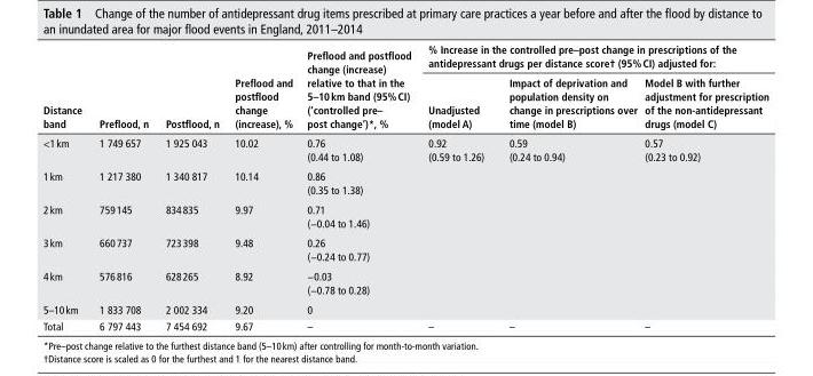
<table><thead><tr><td rowspan="2">distance band</td><td rowspan="2">Preflood, n</td><td rowspan="2">Postflood, n</td><td rowspan="2">Preflood and postflood change (increase), %</td><td rowspan="2">Preflood and postflood change (increase) relative to that in the 5–10 km band (95% cI) (‘controlled pre– post change’)*, %</td><td colspan="3">% Increase in the controlled pre–post change in prescriptions of the antidepressant drugs per distance score† (95% cI) adjusted for:</td></tr><tr><td>unadjusted (model A)</td><td>Impact of deprivation and population density on change in prescriptions over time (model b)</td><td>Model b with further adjustment for prescription of the non-antidepressant drugs (model c)</td></tr></thead><tbody><tr><td>&lt;1 km</td><td>1 749 657</td><td>1 925 043</td><td>10.02</td><td>0.76 (0.44 to 1.08)</td><td rowspan="6">0.92 (0.59 to 1.26)</td><td rowspan="6">0.59 (0.24 to 0.94)</td><td rowspan="6">0.57 (0.23 to 0.92)</td></tr><tr><td>1 km</td><td>1 217 380</td><td>1 340 817</td><td>10.14</td><td>0.86 (0.35 to 1.38)</td></tr><tr><td>2 km</td><td>759 145</td><td>834 835</td><td>9.97</td><td>0.71 (−0.04 to 1.46)</td></tr><tr><td>3 km</td><td>660 737</td><td>723 398</td><td>9.48</td><td>0.26 (−0.24 to 0.77)</td></tr><tr><td>4 km</td><td>576 816</td><td>628 265</td><td>8.92</td><td>−0.03 (−0.78 to 0.28)</td></tr><tr><td>5–10 km</td><td>1 833 708</td><td>2 002 334</td><td>9.20</td><td>0</td></tr><tr><td>Total</td><td>6 797 443</td><td>7 454 692</td><td>9.67</td><td>–</td><td>–</td><td>–</td><td>–</td></tr></tbody></table>